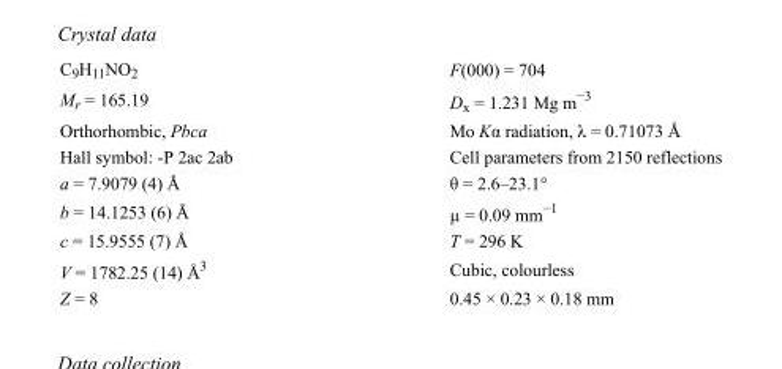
<table><tbody><tr><td>C<sub>9</sub>H<sub>11</sub>NO<sub>2</sub></td><td>F(000) = 704</td></tr><tr><td>M<sub>r</sub> = 165.19</td><td>D<sub>x</sub> = 1.231 Mg m<sup>−3</sup></td></tr><tr><td>Orthorhombic, Pbca</td><td>Mo Kα radiation, λ = 0.71073 Å</td></tr><tr><td>Hall symbol: -P 2ac 2ab</td><td>Cell parameters from 2150 reflections</td></tr><tr><td>a = 7.9079 (4) Å</td><td>θ = 2.6–23.1°</td></tr><tr><td>b = 14.1253 (6) Å</td><td>µ = 0.09 mm<sup>−1</sup></td></tr><tr><td>c = 15.9555 (7) Å</td><td>T = 296 K</td></tr><tr><td>V = 1782.25 (14) Å<sup>3</sup></td><td>Cubic, colourless</td></tr><tr><td>Z = 8</td><td>0.45 × 0.23 × 0.18 mm</td></tr></tbody></table>